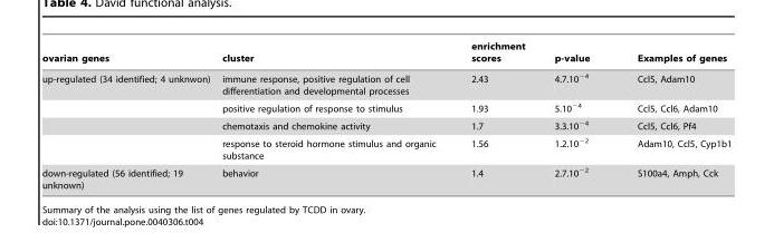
<table><thead><tr><td>ovarian genes</td><td>cluster</td><td>enrichment scores</td><td>p-value</td><td>Examples of genes</td></tr></thead><tbody><tr><td rowspan="4">up-regulated (34 identified; 4 unknwon)</td><td>immune response, positive regulation of cell differentiation and developmental processes</td><td>2.43</td><td>4.7.10<sup>−4</sup></td><td>Ccl5, Adam10</td></tr><tr><td>positive regulation of response to stimulus</td><td>1.93</td><td>5.10<sup>−4</sup></td><td>Ccl5, Ccl6, Adam10</td></tr><tr><td>chemotaxis and chemokine activity</td><td>1.7</td><td>3.3.10<sup>−4</sup></td><td>Ccl5, Ccl6, Pf4</td></tr><tr><td>response to steroid hormone stimulus and organic substance</td><td>1.56</td><td>1.2.10<sup>−2</sup></td><td>Adam10, Ccl5, Cyp1b1</td></tr><tr><td>down-regulated (56 identified; 19 unknown)</td><td>behavior</td><td>1.4</td><td>2.7.10<sup>−2</sup></td><td>S100a4, Amph, Cck</td></tr></tbody></table>